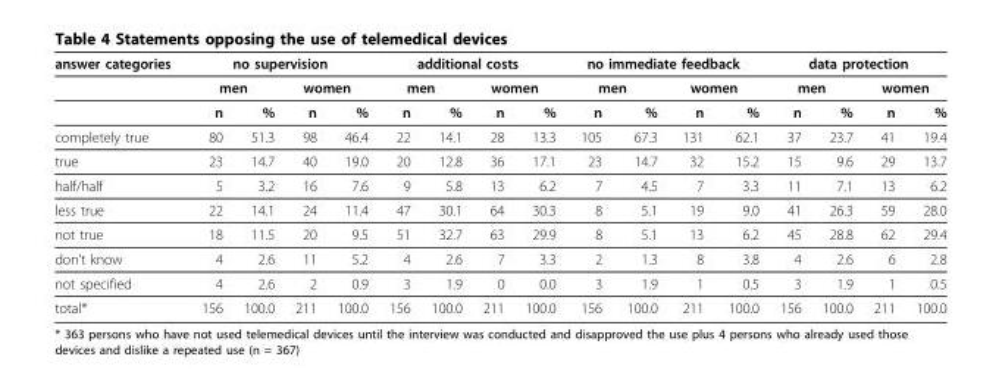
<table><thead><tr><td rowspan="3">answer categories</td><td colspan="4">no supervision</td><td colspan="4">additional costs</td><td colspan="4">no immediate feedback</td><td colspan="4">data protection</td></tr><tr><td colspan="2">men</td><td colspan="2">women</td><td colspan="2">men</td><td colspan="2">women</td><td colspan="2">men</td><td colspan="2">women</td><td colspan="2">men</td><td colspan="2">women</td></tr><tr><td>n</td><td>%</td><td>n</td><td>%</td><td>n</td><td>%</td><td>n</td><td>%</td><td>n</td><td>%</td><td>n</td><td>%</td><td>n</td><td>%</td><td>n</td><td>%</td></tr></thead><tbody><tr><td>completely true</td><td>80</td><td>51.3</td><td>98</td><td>46.4</td><td>22</td><td>14.1</td><td>28</td><td>13.3</td><td>105</td><td>67.3</td><td>131</td><td>62.1</td><td>37</td><td>23.7</td><td>41</td><td>19.4</td></tr><tr><td>true</td><td>23</td><td>14.7</td><td>40</td><td>19.0</td><td>20</td><td>12.8</td><td>36</td><td>17.1</td><td>23</td><td>14.7</td><td>32</td><td>15.2</td><td>15</td><td>9.6</td><td>29</td><td>13.7</td></tr><tr><td>half/half</td><td>5</td><td>3.2</td><td>16</td><td>7.6</td><td>9</td><td>5.8</td><td>13</td><td>6.2</td><td>7</td><td>4.5</td><td>7</td><td>3.3</td><td>11</td><td>7.1</td><td>13</td><td>6.2</td></tr><tr><td>less true</td><td>22</td><td>14.1</td><td>24</td><td>11.4</td><td>47</td><td>30.1</td><td>64</td><td>30.3</td><td>8</td><td>5.1</td><td>19</td><td>9.0</td><td>41</td><td>26.3</td><td>59</td><td>28.0</td></tr><tr><td>not true</td><td>18</td><td>11.5</td><td>20</td><td>9.5</td><td>51</td><td>32.7</td><td>63</td><td>29.9</td><td>8</td><td>5.1</td><td>13</td><td>6.2</td><td>45</td><td>28.8</td><td>62</td><td>29.4</td></tr><tr><td>don’t know</td><td>4</td><td>2.6</td><td>11</td><td>5.2</td><td>4</td><td>2.6</td><td>7</td><td>3.3</td><td>2</td><td>1.3</td><td>8</td><td>3.8</td><td>4</td><td>2.6</td><td>6</td><td>2.8</td></tr><tr><td>not specified</td><td>4</td><td>2.6</td><td>2</td><td>0.9</td><td>3</td><td>1.9</td><td>0</td><td>0.0</td><td>3</td><td>1.9</td><td>1</td><td>0.5</td><td>3</td><td>1.9</td><td>1</td><td>0.5</td></tr><tr><td>total*</td><td>156</td><td>100.0</td><td>211</td><td>100.0</td><td>156</td><td>100.0</td><td>211</td><td>100.0</td><td>156</td><td>100.0</td><td>211</td><td>100.0</td><td>156</td><td>100.0</td><td>211</td><td>100.0</td></tr></tbody></table>